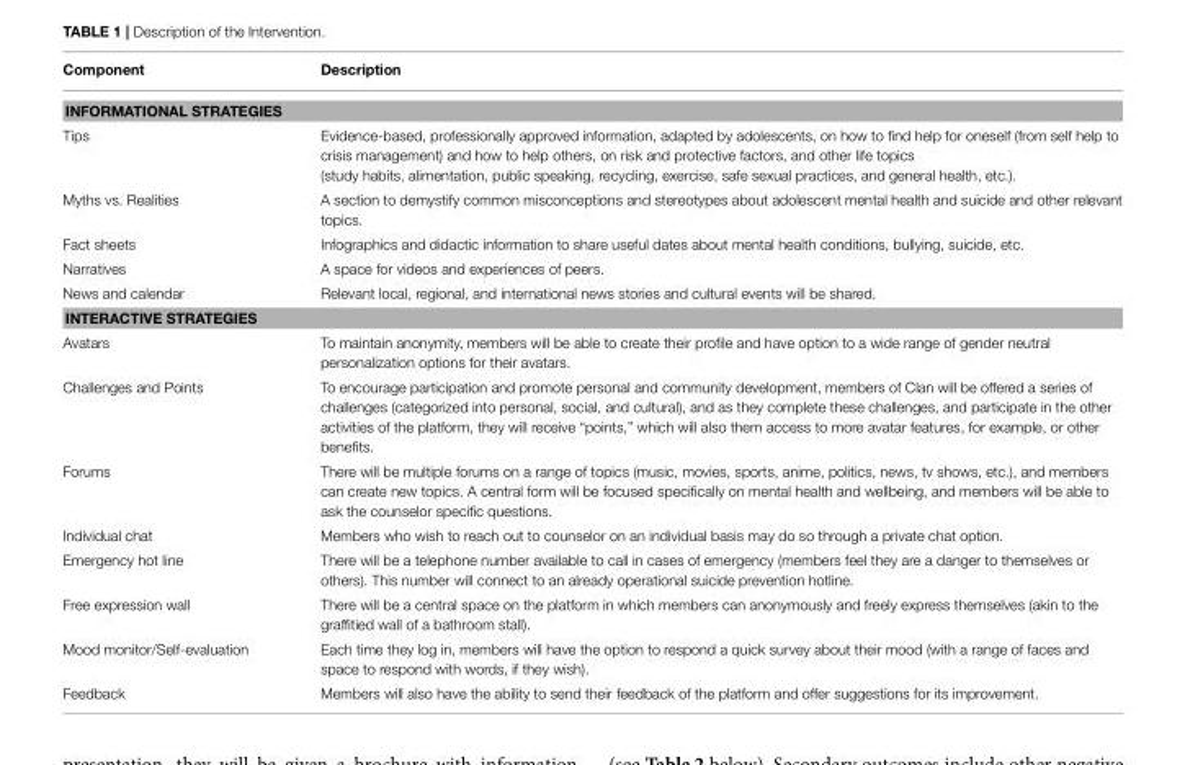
<table><thead><tr><td>Component</td><td>Description</td></tr></thead><tbody><tr><td colspan="2">INFORMATIONAL STRATEGIES</td></tr><tr><td>Tips</td><td>Evidence-based, professionally approved information, adapted by adolescents, on how to find help for oneself (from self help to crisis management) and how to help others, on risk and protective factors, and other life topics (study habits, alimentation, public speaking, recycling, exercise, safe sexual practices, and general health, etc.).</td></tr><tr><td>Myths vs. Realities</td><td>A section to demystify common misconceptions and stereotypes about adolescent mental health and suicide and other relevant topics.</td></tr><tr><td>Fact sheets</td><td>Infographics and didactic information to share useful dates about mental health conditions, bullying, suicide, etc.</td></tr><tr><td>Narratives</td><td>A space for videos and experiences of peers.</td></tr><tr><td>News and calendar</td><td>Relevant local, regional, and international news stories and cultural events will be shared.</td></tr><tr><td colspan="2">INTERACTIVE STRATEGIES</td></tr><tr><td>Avatars</td><td>To maintain anonymity, members will be able to create their profile and have option to a wide range of gender neutral personalization options for their avatars.</td></tr><tr><td>Challenges and Points</td><td>To encourage participation and promote personal and community development, members of Clan will be offered a series of challenges (categorized into personal, social, and cultural), and as they complete these challenges, and participate in the other activities of the platform, they will receive “points,” which will also them access to more avatar features, for example, or other benefits.</td></tr><tr><td>Forums</td><td>There will be multiple forums on a range of topics (music, movies, sports, anime, politics, news, tv shows, etc.), and members can create new topics. A central form will be focused specifically on mental health and wellbeing, and members will be able to ask the counselor specific questions.</td></tr><tr><td>Individual chat</td><td>Members who wish to reach out to counselor on an individual basis may do so through a private chat option.</td></tr><tr><td>Emergency hot line</td><td>There will be a telephone number available to call in cases of emergency (members feel they are a danger to themselves or others). This number will connect to an already operational suicide prevention hotline.</td></tr><tr><td>Free expression wall</td><td>There will be a central space on the platform in which members can anonymously and freely express themselves (akin to the graffitied wall of a bathroom stall).</td></tr><tr><td>Mood monitor/Self-evaluation</td><td>Each time they log in, members will have the option to respond a quick survey about their mood (with a range of faces and space to respond with words, if they wish).</td></tr><tr><td>Feedback</td><td>Members will also have the ability to send their feedback of the platform and offer suggestions for its improvement.</td></tr></tbody></table>